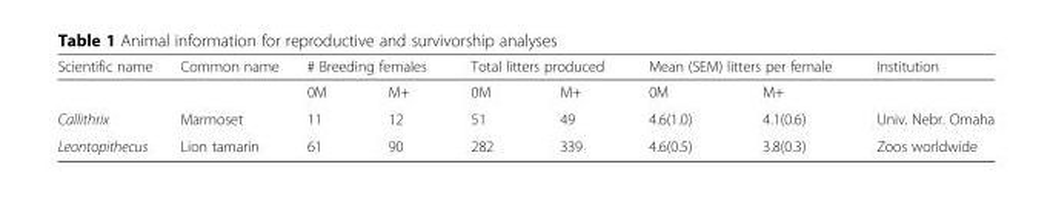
<table><thead><tr><td rowspan="2">Scientific name</td><td rowspan="2">Common name</td><td colspan="2"># Breeding females</td><td colspan="2">Total litters produced</td><td colspan="2">Mean (SEM) litters per female</td><td rowspan="2">Institution</td></tr><tr><td>0M</td><td>M+</td><td>0M</td><td>M+</td><td>0M</td><td>M+</td></tr></thead><tbody><tr><td>Callithrix</td><td>Marmoset</td><td>11</td><td>12</td><td>51</td><td>49</td><td>4.6(1.0)</td><td>4.1(0.6)</td><td>Univ. Nebr. Omaha</td></tr><tr><td>Leontopithecus</td><td>Lion tamarin</td><td>61</td><td>90</td><td>282</td><td>339</td><td>4.6(0.5)</td><td>3.8(0.3)</td><td>Zoos worldwide</td></tr></tbody></table>